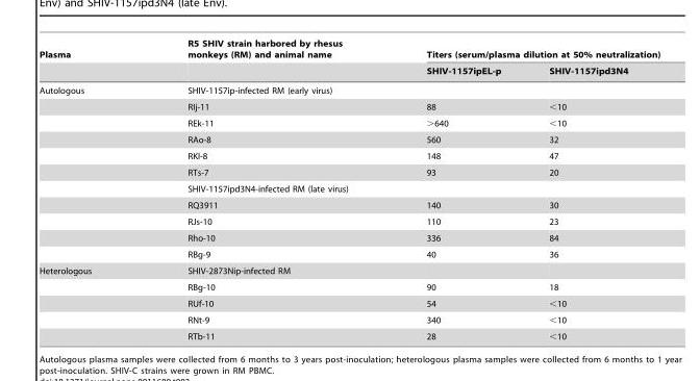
<table><thead><tr><td rowspan="2">Plasma</td><td rowspan="2">R5 SHIV strain harbored by rhesus monkeys (RM) and animal name</td><td colspan="2">Titers (serum/plasma dilution at 50% neutralization)</td></tr><tr><td>SHIV-1157ipEL-p</td><td>SHIV-1157ipd3N4</td></tr></thead><tbody><tr><td rowspan="11">Autologous</td><td>SHIV-1157ip-infected RM (early virus)</td><td></td><td></td></tr><tr><td>RIj-11</td><td>88</td><td>&lt;10</td></tr><tr><td>REk-11</td><td>&gt;640</td><td>&lt;10</td></tr><tr><td>RAo-8</td><td>560</td><td>32</td></tr><tr><td>RKl-8</td><td>148</td><td>47</td></tr><tr><td>RTs-7</td><td>93</td><td>20</td></tr><tr><td>SHIV-1157ipd3N4-infected RM (late virus)</td><td></td><td></td></tr><tr><td>RQ3911</td><td>140</td><td>30</td></tr><tr><td>RJs-10</td><td>110</td><td>23</td></tr><tr><td>Rho-10</td><td>336</td><td>84</td></tr><tr><td>RBg-9</td><td>40</td><td>36</td></tr><tr><td rowspan="5">Heterologous</td><td>SHIV-2873Nip-infected RM</td><td></td><td></td></tr><tr><td>RBg-10</td><td>90</td><td>18</td></tr><tr><td>RUf-10</td><td>54</td><td>&lt;10</td></tr><tr><td>RNt-9</td><td>340</td><td>&lt;10</td></tr><tr><td>RTb-11</td><td>28</td><td>&lt;10</td></tr></tbody></table>